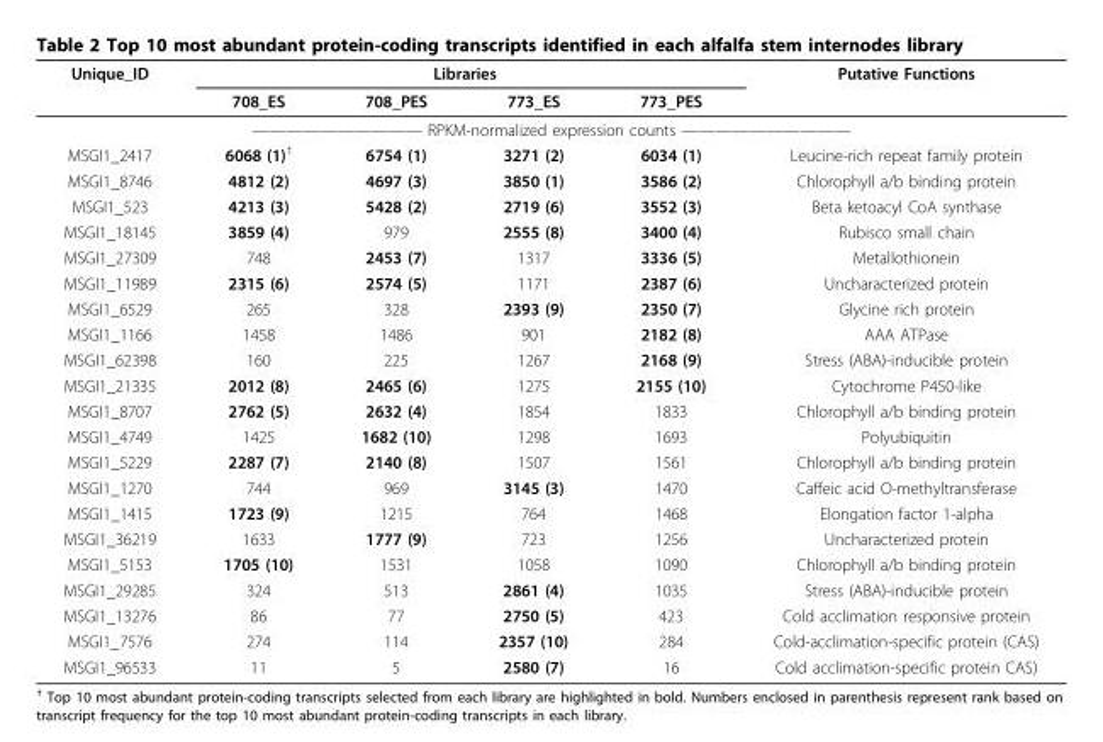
<table><thead><tr><td rowspan="2">Unique_ID</td><td colspan="4">Libraries</td><td rowspan="2">Putative Functions</td></tr><tr><td>708_ES</td><td>708_PES</td><td>773_ES</td><td>773_PES</td></tr></thead><tbody><tr><td colspan="6">—————————— RPKM-normalized expression counts ——————————</td></tr><tr><td>MSGI1_2417</td><td>6068 (1)<sup>†</sup></td><td>6754 (1)</td><td>3271 (2)</td><td>6034 (1)</td><td>Leucine-rich repeat family protein</td></tr><tr><td>MSGI1_8746</td><td>4812 (2)</td><td>4697 (3)</td><td>3850 (1)</td><td>3586 (2)</td><td>Chlorophyll a/b binding protein</td></tr><tr><td>MSGI1_523</td><td>4213 (3)</td><td>5428 (2)</td><td>2719 (6)</td><td>3552 (3)</td><td>Beta ketoacyl CoA synthase</td></tr><tr><td>MSGI1_18145</td><td>3859 (4)</td><td>979</td><td>2555 (8)</td><td>3400 (4)</td><td>Rubisco small chain</td></tr><tr><td>MSGI1_27309</td><td>748</td><td>2453 (7)</td><td>1317</td><td>3336 (5)</td><td>Metallothionein</td></tr><tr><td>MSGI1_11989</td><td>2315 (6)</td><td>2574 (5)</td><td>1171</td><td>2387 (6)</td><td>Uncharacterized protein</td></tr><tr><td>MSGI1_6529</td><td>265</td><td>328</td><td>2393 (9)</td><td>2350 (7)</td><td>Glycine rich protein</td></tr><tr><td>MSGI1_1166</td><td>1458</td><td>1486</td><td>901</td><td>2182 (8)</td><td>AAA ATPase</td></tr><tr><td>MSGI1_62398</td><td>160</td><td>225</td><td>1267</td><td>2168 (9)</td><td>Stress (ABA)-inducible protein</td></tr><tr><td>MSGI1_21335</td><td>2012 (8)</td><td>2465 (6)</td><td>1275</td><td>2155 (10)</td><td>Cytochrome P450-like</td></tr><tr><td>MSGI1_8707</td><td>2762 (5)</td><td>2632 (4)</td><td>1854</td><td>1833</td><td>Chlorophyll a/b binding protein</td></tr><tr><td>MSGI1_4749</td><td>1425</td><td>1682 (10)</td><td>1298</td><td>1693</td><td>Polyubiquitin</td></tr><tr><td>MSGI1_5229</td><td>2287 (7)</td><td>2140 (8)</td><td>1507</td><td>1561</td><td>Chlorophyll a/b binding protein</td></tr><tr><td>MSGI1_1270</td><td>744</td><td>969</td><td>3145 (3)</td><td>1470</td><td>Caffeic acid O-methyltransferase</td></tr><tr><td>MSGI1_1415</td><td>1723 (9)</td><td>1215</td><td>764</td><td>1468</td><td>Elongation factor 1-alpha</td></tr><tr><td>MSGI1_36219</td><td>1633</td><td>1777 (9)</td><td>723</td><td>1256</td><td>Uncharacterized protein</td></tr><tr><td>MSGI1_5153</td><td>1705 (10)</td><td>1531</td><td>1058</td><td>1090</td><td>Chlorophyll a/b binding protein</td></tr><tr><td>MSGI1_29285</td><td>324</td><td>513</td><td>2861 (4)</td><td>1035</td><td>Stress (ABA)-inducible protein</td></tr><tr><td>MSGI1_13276</td><td>86</td><td>77</td><td>2750 (5)</td><td>423</td><td>Cold acclimation responsive protein</td></tr><tr><td>MSGI1_7576</td><td>274</td><td>114</td><td>2357 (10)</td><td>284</td><td>Cold-acclimation-specific protein (CAS)</td></tr><tr><td>MSGI1_96533</td><td>11</td><td>5</td><td>2580 (7)</td><td>16</td><td>Cold acclimation-specific protein CAS)</td></tr></tbody></table>